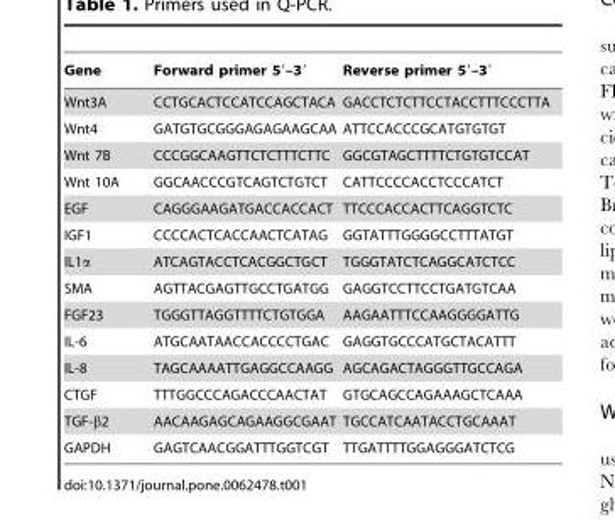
<table><thead><tr><td>Gene</td><td>Forward primer 5′–3′</td><td>Reverse primer 5′–3′</td></tr></thead><tbody><tr><td>Wnt3A</td><td>CCTGCACTCCATCCAGCTACA</td><td>GACCTCTCTTCCTACCTTTCCCTTA</td></tr><tr><td>Wnt4</td><td>GATGTGCGGGAGAGAAGCAA</td><td>ATTCCACCCGCATGTGTGT</td></tr><tr><td>Wnt 7B</td><td>CCCGGCAAGTTCTCTTTCTTC</td><td>GGCGTAGCTTTTCTGTGTCCAT</td></tr><tr><td>Wnt 10A</td><td>GGCAACCCGTCAGTCTGTCT</td><td>CATTCCCCACCTCCCATCT</td></tr><tr><td>EGF</td><td>CAGGGAAGATGACCACCACT</td><td>TTCCCACCACTTCAGGTCTC</td></tr><tr><td>IGF1</td><td>CCCCACTCACCAACTCATAG</td><td>GGTATTTGGGGCCTTTATGT</td></tr><tr><td>IL1α</td><td>ATCAGTACCTCACGGCTGCT</td><td>TGGGTATCTCAGGCATCTCC</td></tr><tr><td>SMA</td><td>AGTTACGAGTTGCCTGATGG</td><td>GAGGTCCTTCCTGATGTCAA</td></tr><tr><td>FGF23</td><td>TGGGTTAGGTTTTCTGTGGA</td><td>AAGAATTTCCAAGGGGATTG</td></tr><tr><td>IL-6</td><td>ATGCAATAACCACCCCTGAC</td><td>GAGGTGCCCATGCTACATTT</td></tr><tr><td>IL-8</td><td>TAGCAAAATTGAGGCCAAGG</td><td>AGCAGACTAGGGTTGCCAGA</td></tr><tr><td>CTGF</td><td>TTTGGCCCAGACCCAACTAT</td><td>GTGCAGCCAGAAAGCTCAAA</td></tr><tr><td>TGF-β2</td><td>AACAAGAGCAGAAGGCGAAT</td><td>TGCCATCAATACCTGCAAAT</td></tr><tr><td>GAPDH</td><td>GAGTCAACGGATTTGGTCGT</td><td>TTGATTTTGGAGGGATCTCG</td></tr></tbody></table>